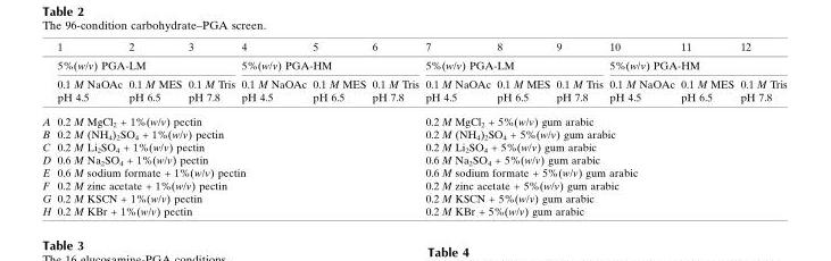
<table><thead><tr><td rowspan="3"></td><td>1</td><td>2</td><td>3</td><td>4</td><td>5</td><td>6</td><td>7</td><td>8</td><td>9</td><td>10</td><td>11</td><td>12</td></tr><tr><td colspan="3">5%(w/v) PGA-LM</td><td colspan="3">5%(w/v) PGA-HM</td><td colspan="3">5%(w/v) PGA-LM</td><td colspan="3">5%(w/v) PGA-HM</td></tr><tr><td>0.1 M NaOAc pH 4.5</td><td>0.1 M MES pH 6.5</td><td>0.1 M Tris pH 7.8</td><td>0.1 M NaOAc pH 4.5</td><td>0.1 M MES pH 6.5</td><td>0.1 M Tris pH 7.8</td><td>0.1 M NaOAc pH 4.5</td><td>0.1 M MES pH 6.5</td><td>0.1 M Tris pH 7.8</td><td>0.1 M NaOAc pH 4.5</td><td>0.1 M MES pH 6.5</td><td>0.1 M Tris pH 7.8</td></tr></thead><tbody><tr><td>A</td><td colspan="6">0.2 M MgCl<sub>2</sub> + 1%(w/v) pectin</td><td colspan="6">0.2 M MgCl<sub>2</sub> + 5%(w/v) gum arabic</td></tr><tr><td>B</td><td colspan="6">0.2 M (NH<sub>4</sub>)<sub>2</sub>SO<sub>4</sub> + 1%(w/v) pectin</td><td colspan="6">0.2 M (NH<sub>4</sub>)<sub>2</sub>SO<sub>4</sub> + 5%(w/v) gum arabic</td></tr><tr><td>C</td><td colspan="6">0.2 M Li<sub>2</sub>SO<sub>4</sub> + 1%(w/v) pectin</td><td colspan="6">0.2 M Li<sub>2</sub>SO<sub>4</sub> + 5%(w/v) gum arabic</td></tr><tr><td>D</td><td colspan="6">0.6 M Na<sub>2</sub>SO<sub>4</sub> + 1%(w/v) pectin</td><td colspan="6">0.6 M Na<sub>2</sub>SO<sub>4</sub> + 5%(w/v) gum arabic</td></tr><tr><td>E</td><td colspan="6">0.6 M sodium formate + 1%(w/v) pectin</td><td colspan="6">0.6 M sodium formate + 5%(w/v) gum arabic</td></tr><tr><td>F</td><td colspan="6">0.2 M zinc acetate + 1%(w/v) pectin</td><td colspan="6">0.2 M zinc acetate + 5%(w/v) gum arabic</td></tr><tr><td>G</td><td colspan="6">0.2 M KSCN + 1%(w/v) pectin</td><td colspan="6">0.2 M KSCN + 5%(w/v) gum arabic</td></tr><tr><td>H</td><td colspan="6">0.2 M KBr + 1%(w/v) pectin</td><td colspan="6">0.2 M KBr + 5%(w/v) gum arabic</td></tr></tbody></table>